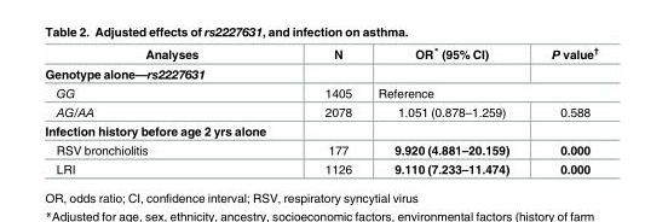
<table><thead><tr><td>Analyses</td><td>N</td><td>OR* (95% CI)</td><td>P value<sup>†</sup></td></tr></thead><tbody><tr><td colspan="4">Genotype alone—rs2227631</td></tr><tr><td>GG</td><td>1405</td><td colspan="2">Reference</td></tr><tr><td>AG/AA</td><td>2078</td><td>1.051 (0.878–1.259)</td><td>0.588</td></tr><tr><td colspan="4">Infection history before age 2 yrs alone</td></tr><tr><td>RSV bronchiolitis</td><td>177</td><td>9.920 (4.881–20.159)</td><td>0.000</td></tr><tr><td>LRI</td><td>1126</td><td>9.110 (7.233–11.474)</td><td>0.000</td></tr></tbody></table>